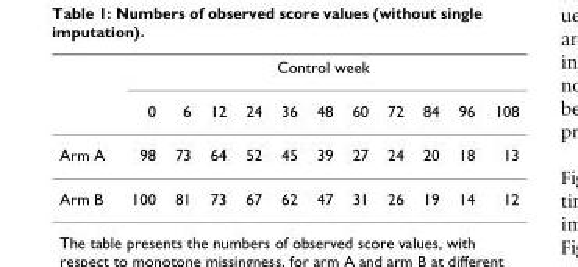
<table><thead><tr><td rowspan="2"></td><td colspan="11">Control week</td></tr><tr><td>0</td><td>6</td><td>12</td><td>24</td><td>36</td><td>48</td><td>60</td><td>72</td><td>84</td><td>96</td><td>108</td></tr></thead><tbody><tr><td>Arm A</td><td>98</td><td>73</td><td>64</td><td>52</td><td>45</td><td>39</td><td>27</td><td>24</td><td>20</td><td>18</td><td>13</td></tr><tr><td>Arm B</td><td>100</td><td>81</td><td>73</td><td>67</td><td>62</td><td>47</td><td>31</td><td>26</td><td>19</td><td>14</td><td>12</td></tr></tbody></table>